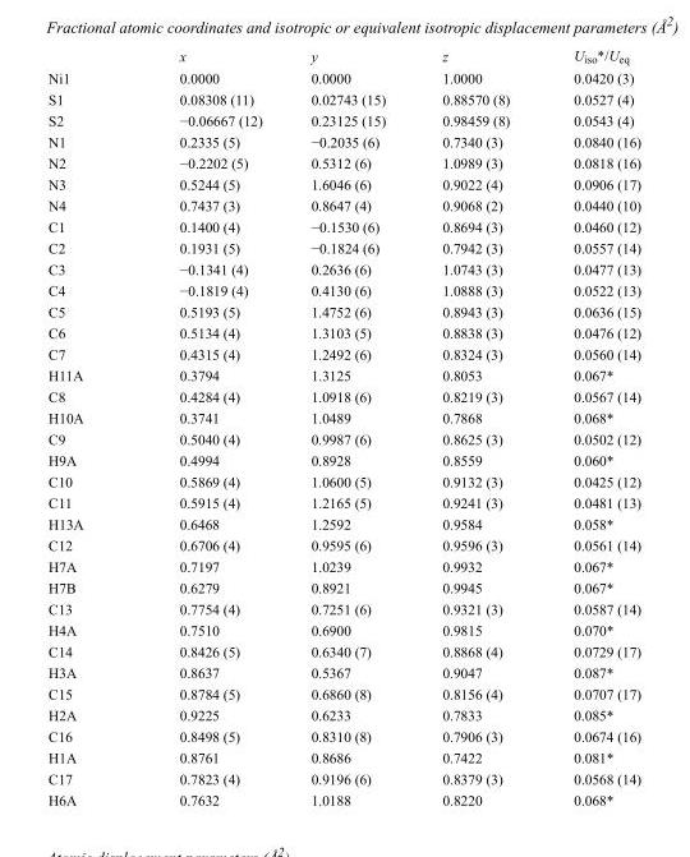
<table><thead><tr><td></td><td>x</td><td>y</td><td>z</td><td>U<sub>iso</sub>*/U<sub>eq</sub></td></tr></thead><tbody><tr><td>Ni1</td><td>0.0000</td><td>0.0000</td><td>1.0000</td><td>0.0420 (3)</td></tr><tr><td>S1</td><td>0.08308 (11)</td><td>0.02743 (15)</td><td>0.88570 (8)</td><td>0.0527 (4)</td></tr><tr><td>S2</td><td>−0.06667 (12)</td><td>0.23125 (15)</td><td>0.98459 (8)</td><td>0.0543 (4)</td></tr><tr><td>N1</td><td>0.2335 (5)</td><td>−0.2035 (6)</td><td>0.7340 (3)</td><td>0.0840 (16)</td></tr><tr><td>N2</td><td>−0.2202 (5)</td><td>0.5312 (6)</td><td>1.0989 (3)</td><td>0.0818 (16)</td></tr><tr><td>N3</td><td>0.5244 (5)</td><td>1.6046 (6)</td><td>0.9022 (4)</td><td>0.0906 (17)</td></tr><tr><td>N4</td><td>0.7437 (3)</td><td>0.8647 (4)</td><td>0.9068 (2)</td><td>0.0440 (10)</td></tr><tr><td>C1</td><td>0.1400 (4)</td><td>−0.1530 (6)</td><td>0.8694 (3)</td><td>0.0460 (12)</td></tr><tr><td>C2</td><td>0.1931 (5)</td><td>−0.1824 (6)</td><td>0.7942 (3)</td><td>0.0557 (14)</td></tr><tr><td>C3</td><td>−0.1341 (4)</td><td>0.2636 (6)</td><td>1.0743 (3)</td><td>0.0477 (13)</td></tr><tr><td>C4</td><td>−0.1819 (4)</td><td>0.4130 (6)</td><td>1.0888 (3)</td><td>0.0522 (13)</td></tr><tr><td>C5</td><td>0.5193 (5)</td><td>1.4752 (6)</td><td>0.8943 (3)</td><td>0.0636 (15)</td></tr><tr><td>C6</td><td>0.5134 (4)</td><td>1.3103 (5)</td><td>0.8838 (3)</td><td>0.0476 (12)</td></tr><tr><td>C7</td><td>0.4315 (4)</td><td>1.2492 (6)</td><td>0.8324 (3)</td><td>0.0560 (14)</td></tr><tr><td>H11A</td><td>0.3794</td><td>1.3125</td><td>0.8053</td><td>0.067*</td></tr><tr><td>C8</td><td>0.4284 (4)</td><td>1.0918 (6)</td><td>0.8219 (3)</td><td>0.0567 (14)</td></tr><tr><td>H10A</td><td>0.3741</td><td>1.0489</td><td>0.7868</td><td>0.068*</td></tr><tr><td>C9</td><td>0.5040 (4)</td><td>0.9987 (6)</td><td>0.8625 (3)</td><td>0.0502 (12)</td></tr><tr><td>H9A</td><td>0.4994</td><td>0.8928</td><td>0.8559</td><td>0.060*</td></tr><tr><td>C10</td><td>0.5869 (4)</td><td>1.0600 (5)</td><td>0.9132 (3)</td><td>0.0425 (12)</td></tr><tr><td>C11</td><td>0.5915 (4)</td><td>1.2165 (5)</td><td>0.9241 (3)</td><td>0.0481 (13)</td></tr><tr><td>H13A</td><td>0.6468</td><td>1.2592</td><td>0.9584</td><td>0.058*</td></tr><tr><td>C12</td><td>0.6706 (4)</td><td>0.9595 (6)</td><td>0.9596 (3)</td><td>0.0561 (14)</td></tr><tr><td>H7A</td><td>0.7197</td><td>1.0239</td><td>0.9932</td><td>0.067*</td></tr><tr><td>H7B</td><td>0.6279</td><td>0.8921</td><td>0.9945</td><td>0.067*</td></tr><tr><td>C13</td><td>0.7754 (4)</td><td>0.7251 (6)</td><td>0.9321 (3)</td><td>0.0587 (14)</td></tr><tr><td>H4A</td><td>0.7510</td><td>0.6900</td><td>0.9815</td><td>0.070*</td></tr><tr><td>C14</td><td>0.8426 (5)</td><td>0.6340 (7)</td><td>0.8868 (4)</td><td>0.0729 (17)</td></tr><tr><td>H3A</td><td>0.8637</td><td>0.5367</td><td>0.9047</td><td>0.087*</td></tr><tr><td>C15</td><td>0.8784 (5)</td><td>0.6860 (8)</td><td>0.8156 (4)</td><td>0.0707 (17)</td></tr><tr><td>H2A</td><td>0.9225</td><td>0.6233</td><td>0.7833</td><td>0.085*</td></tr><tr><td>C16</td><td>0.8498 (5)</td><td>0.8310 (8)</td><td>0.7906 (3)</td><td>0.0674 (16)</td></tr><tr><td>H1A</td><td>0.8761</td><td>0.8686</td><td>0.7422</td><td>0.081*</td></tr><tr><td>C17</td><td>0.7823 (4)</td><td>0.9196 (6)</td><td>0.8379 (3)</td><td>0.0568 (14)</td></tr><tr><td>H6A</td><td>0.7632</td><td>1.0188</td><td>0.8220</td><td>0.068*</td></tr></tbody></table>